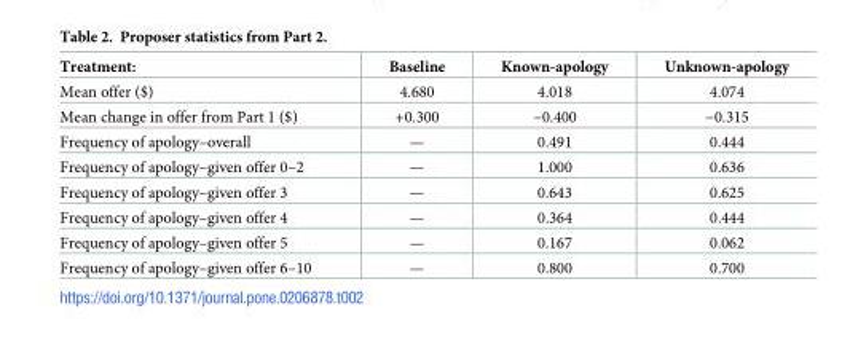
<table><thead><tr><td>Treatment:</td><td>Baseline</td><td>Known-apology</td><td>Unknown-apology</td></tr></thead><tbody><tr><td>Mean offer ($)</td><td>4.680</td><td>4.018</td><td>4.074</td></tr><tr><td>Mean change in offer from Part 1 ($)</td><td>+0.300</td><td>−0.400</td><td>−0.315</td></tr><tr><td>Frequency of apology–overall</td><td>—</td><td>0.491</td><td>0.444</td></tr><tr><td>Frequency of apology–given offer 0–2</td><td>—</td><td>1.000</td><td>0.636</td></tr><tr><td>Frequency of apology–given offer 3</td><td>—</td><td>0.643</td><td>0.625</td></tr><tr><td>Frequency of apology–given offer 4</td><td>—</td><td>0.364</td><td>0.444</td></tr><tr><td>Frequency of apology–given offer 5</td><td>—</td><td>0.167</td><td>0.062</td></tr><tr><td>Frequency of apology–given offer 6–10</td><td>—</td><td>0.800</td><td>0.700</td></tr></tbody></table>